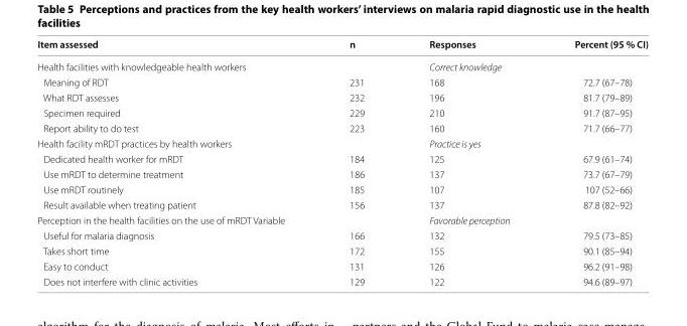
<table><thead><tr><td>Item assessed</td><td>n</td><td>Responses</td><td>Percent (95 % CI)</td></tr></thead><tbody><tr><td>Health facilities with knowledgeable health workers</td><td></td><td>Correct knowledge</td><td></td></tr><tr><td>Meaning of RDT</td><td>231</td><td>168</td><td>72.7 (67–78)</td></tr><tr><td>What RDT assesses</td><td>232</td><td>196</td><td>81.7 (79–89)</td></tr><tr><td>Specimen required</td><td>229</td><td>210</td><td>91.7 (87–95)</td></tr><tr><td>Report ability to do test</td><td>223</td><td>160</td><td>71.7 (66–77)</td></tr><tr><td>Health facility mRDT practices by health workers</td><td></td><td>Practice is yes</td><td></td></tr><tr><td>Dedicated health worker for mRDT</td><td>184</td><td>125</td><td>67.9 (61–74)</td></tr><tr><td>Use mRDT to determine treatment</td><td>186</td><td>137</td><td>73.7 (67–79)</td></tr><tr><td>Use mRDT routinely</td><td>185</td><td>107</td><td>107 (52–66)</td></tr><tr><td>Result available when treating patient</td><td>156</td><td>137</td><td>87.8 (82–92)</td></tr><tr><td>Perception in the health facilities on the use of mRDT Variable</td><td></td><td>Favorable perception</td><td></td></tr><tr><td>Useful for malaria diagnosis</td><td>166</td><td>132</td><td>79.5 (73–85)</td></tr><tr><td>Takes short time</td><td>172</td><td>155</td><td>90.1 (85–94)</td></tr><tr><td>Easy to conduct</td><td>131</td><td>126</td><td>96.2 (91–98)</td></tr><tr><td>Does not interfere with clinic activities</td><td>129</td><td>122</td><td>94.6 (89–97)</td></tr></tbody></table>